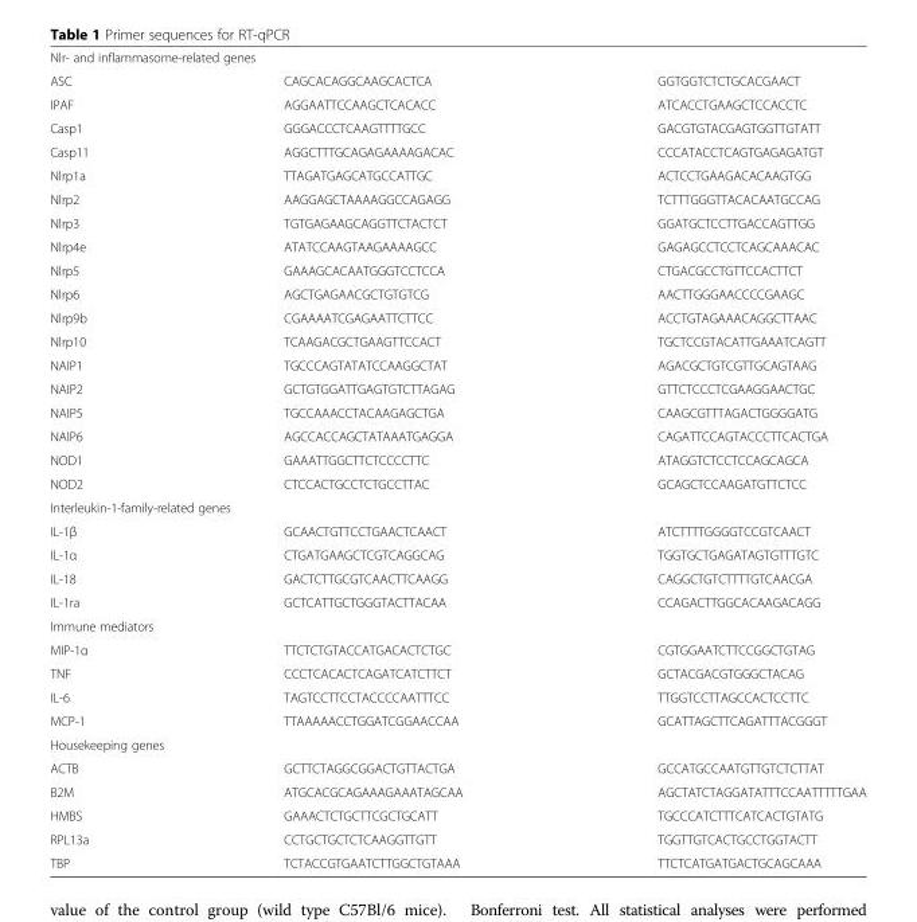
<table><tbody><tr><td colspan="3">Nlr- and inflammasome-related genes</td></tr><tr><td>ASC</td><td>CAGCACAGGCAAGCACTCA</td><td>GGTGGTCTCTGCACGAACT</td></tr><tr><td>IPAF</td><td>AGGAATTCCAAGCTCACACC</td><td>ATCACCTGAAGCTCCACCTC</td></tr><tr><td>Casp1</td><td>GGGACCCTCAAGTTTTGCC</td><td>GACGTGTACGAGTGGTTGTATT</td></tr><tr><td>Casp11</td><td>AGGCTTTGCAGAGAAAAGACAC</td><td>CCCATACCTCAGTGAGAGATGT</td></tr><tr><td>Nlrp1a</td><td>TTAGATGAGCATGCCATTGC</td><td>ACTCCTGAAGACACAAGTGG</td></tr><tr><td>Nlrp2</td><td>AAGGAGCTAAAAGGCCAGAGG</td><td>TCTTTGGGTTACACAATGCCAG</td></tr><tr><td>Nlrp3</td><td>TGTGAGAAGCAGGTTCTACTCT</td><td>GGATGCTCCTTGACCAGTTGG</td></tr><tr><td>Nlrp4e</td><td>ATATCCAAGTAAGAAAAGCC</td><td>GAGAGCCTCCTCAGCAAACAC</td></tr><tr><td>Nlrp5</td><td>GAAAGCACAATGGGTCCTCCA</td><td>CTGACGCCTGTTCCACTTCT</td></tr><tr><td>Nlrp6</td><td>AGCTGAGAACGCTGTGTCG</td><td>AACTTGGGAACCCCGAAGC</td></tr><tr><td>Nlrp9b</td><td>CGAAAATCGAGAATTCTTCC</td><td>ACCTGTAGAAACAGGCTTAAC</td></tr><tr><td>Nlrp10</td><td>TCAAGACGCTGAAGTTCCACT</td><td>TGCTCCGTACATTGAAATCAGTT</td></tr><tr><td>NAIP1</td><td>TGCCCAGTATATCCAAGGCTAT</td><td>AGACGCTGTCGTTGCAGTAAG</td></tr><tr><td>NAIP2</td><td>GCTGTGGATTGAGTGTCTTAGAG</td><td>GTTCTCCCTCGAAGGAACTGC</td></tr><tr><td>NAIP5</td><td>TGCCAAACCTACAAGAGCTGA</td><td>CAAGCGTTTAGACTGGGGATG</td></tr><tr><td>NAIP6</td><td>AGCCACCAGCTATAAATGAGGA</td><td>CAGATTCCAGTACCCTTCACTGA</td></tr><tr><td>NOD1</td><td>GAAATTGGCTTCTCCCCTTC</td><td>ATAGGTCTCCTCCAGCAGCA</td></tr><tr><td>NOD2</td><td>CTCCACTGCCTCTGCCTTAC</td><td>GCAGCTCCAAGATGTTCTCC</td></tr><tr><td colspan="3">Interleukin-1-family-related genes</td></tr><tr><td>IL-1β</td><td>GCAACTGTTCCTGAACTCAACT</td><td>ATCTTTTGGGGTCCGTCAACT</td></tr><tr><td>IL-1α</td><td>CTGATGAAGCTCGTCAGGCAG</td><td>TGGTGCTGAGATAGTGTTTGTC</td></tr><tr><td>IL-18</td><td>GACTCTTGCGTCAACTTCAAGG</td><td>CAGGCTGTCTTTTGTCAACGA</td></tr><tr><td>IL-1ra</td><td>GCTCATTGCTGGGTACTTACAA</td><td>CCAGACTTGGCACAAGACAGG</td></tr><tr><td colspan="3">Immune mediators</td></tr><tr><td>MIP-1α</td><td>TTCTCTGTACCATGACACTCTGC</td><td>CGTGGAATCTTCCGGCTGTAG</td></tr><tr><td>TNF</td><td>CCCTCACACTCAGATCATCTTCT</td><td>GCTACGACGTGGGCTACAG</td></tr><tr><td>IL-6</td><td>TAGTCCTTCCTACCCCAATTTCC</td><td>TTGGTCCTTAGCCACTCCTTC</td></tr><tr><td>MCP-1</td><td>TTAAAAACCTGGATCGGAACCAA</td><td>GCATTAGCTTCAGATTTACGGGT</td></tr><tr><td colspan="3">Housekeeping genes</td></tr><tr><td>ACTB</td><td>GCTTCTAGGCGGACTGTTACTGA</td><td>GCCATGCCAATGTTGTCTCTTAT</td></tr><tr><td>B2M</td><td>ATGCACGCAGAAAGAAATAGCAA</td><td>AGCTATCTAGGATATTTCCAATTTTTGAA</td></tr><tr><td>HMBS</td><td>GAAACTCTGCTTCGCTGCATT</td><td>TGCCCATCTTTCATCACTGTATG</td></tr><tr><td>RPL13a</td><td>CCTGCTGCTCTCAAGGTTGTT</td><td>TGGTTGTCACTGCCTGGTACTT</td></tr><tr><td>TBP</td><td>TCTACCGTGAATCTTGGCTGTAAA</td><td>TTCTCATGATGACTGCAGCAAA</td></tr></tbody></table>